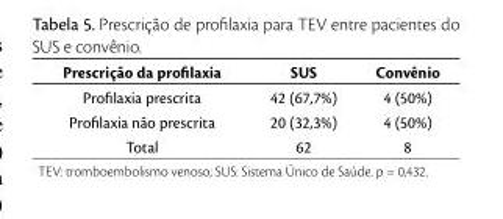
<table><thead><tr><td>Prescrição da profilaxia</td><td>SUS</td><td>Convênio</td></tr></thead><tbody><tr><td>Profilaxia prescrita</td><td>42 (67,7%)</td><td>4 (50%)</td></tr><tr><td>Profilaxia não prescrita</td><td>20 (32,3%)</td><td>4 (50%)</td></tr><tr><td>Total</td><td>62</td><td>8</td></tr></tbody></table>